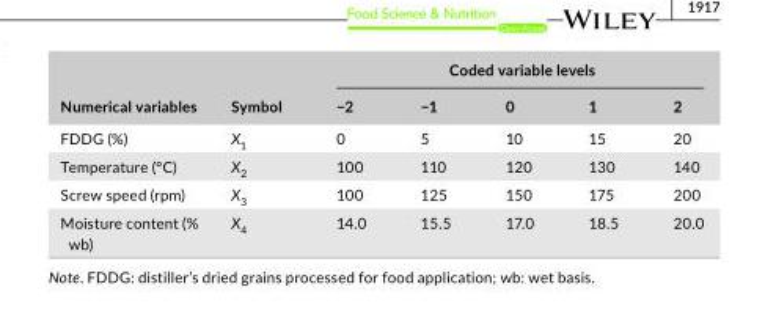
<table><thead><tr><td rowspan="2">Numerical variables</td><td rowspan="2">Symbol</td><td colspan="5">Coded variable levels</td></tr><tr><td>−2</td><td>−1</td><td>0</td><td>1</td><td>2</td></tr></thead><tbody><tr><td>FDDG (%)</td><td>X<sub>1</sub></td><td>0</td><td>5</td><td>10</td><td>15</td><td>20</td></tr><tr><td>Temperature (°C)</td><td>X<sub>2</sub></td><td>100</td><td>110</td><td>120</td><td>130</td><td>140</td></tr><tr><td>Screw speed (rpm)</td><td>X<sub>3</sub></td><td>100</td><td>125</td><td>150</td><td>175</td><td>200</td></tr><tr><td>Moisture content (% wb)</td><td>X<sub>4</sub></td><td>14.0</td><td>15.5</td><td>17.0</td><td>18.5</td><td>20.0</td></tr></tbody></table>